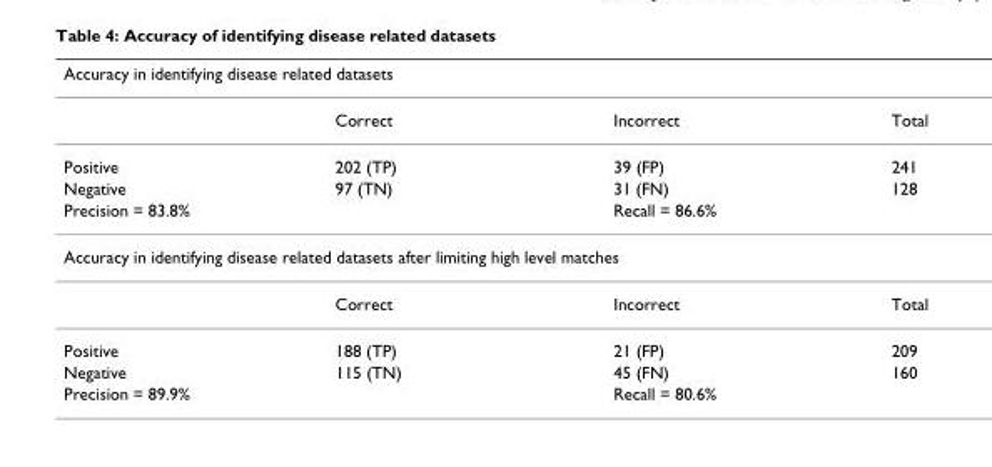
<table><thead><tr><td colspan="4">Accuracy in identifying disease related datasets</td></tr><tr><td></td><td>Correct</td><td>Incorrect</td><td>Total</td></tr></thead><tbody><tr><td>Positive</td><td>202 (TP)</td><td>39 (FP)</td><td>241</td></tr><tr><td>Negative</td><td>97 (TN)</td><td>31 (FN)</td><td>128</td></tr><tr><td colspan="2">Precision = 83.8%</td><td colspan="2">Recall = 86.6%</td></tr><tr><td colspan="4">Accuracy in identifying disease related datasets after limiting high level matches</td></tr><tr><td></td><td>Correct</td><td>Incorrect</td><td>Total</td></tr><tr><td>Positive</td><td>188 (TP)</td><td>21 (FP)</td><td>209</td></tr><tr><td>Negative</td><td>115 (TN)</td><td>45 (FN)</td><td>160</td></tr><tr><td colspan="2">Precision = 89.9%</td><td colspan="2">Recall = 80.6%</td></tr></tbody></table>